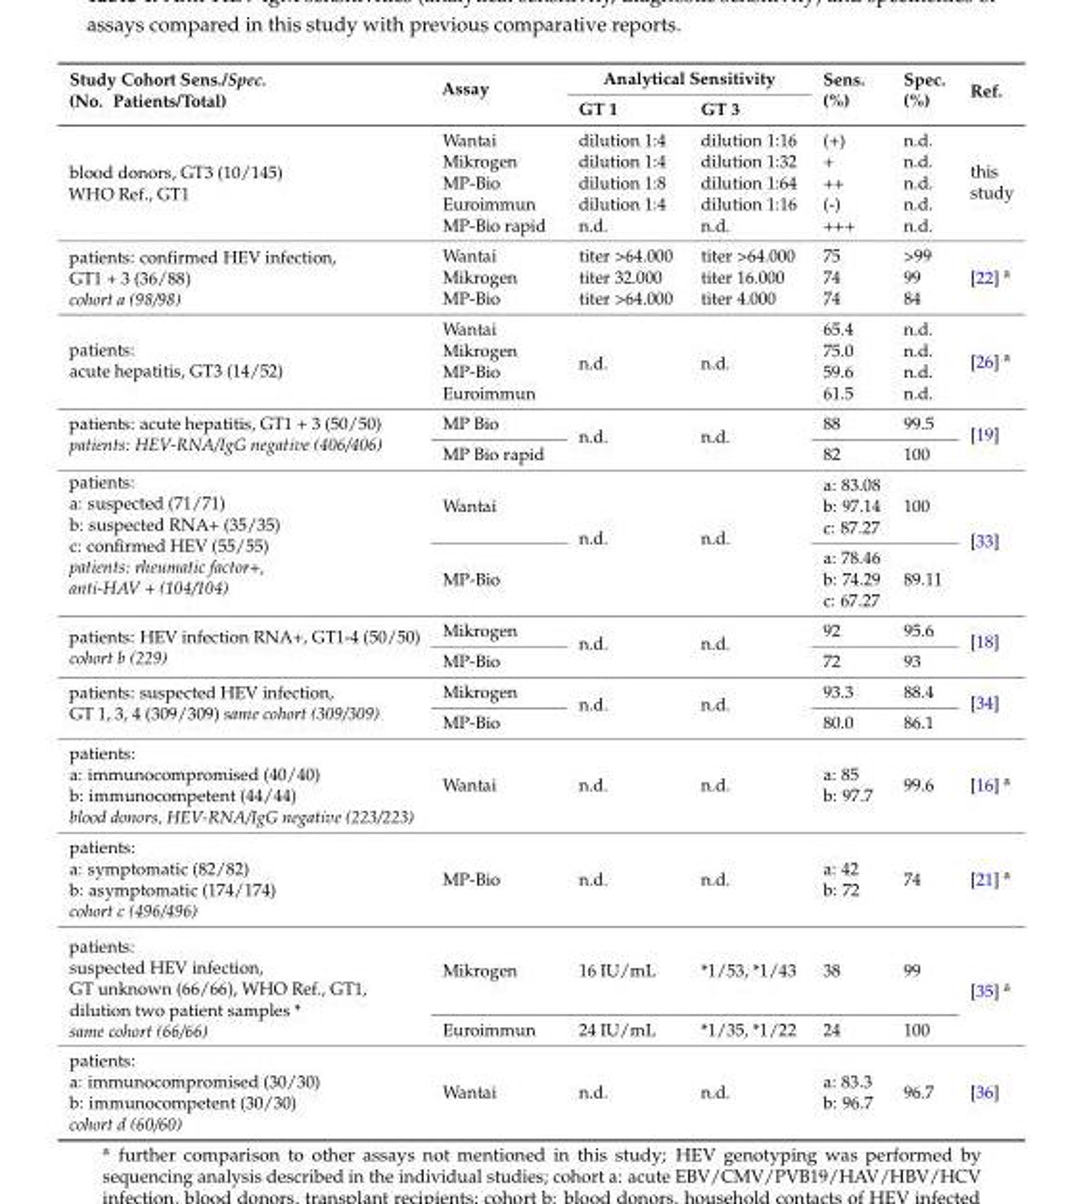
<table><thead><tr><td rowspan="2">Study Cohort Sens./Spec. (No. Patients/Total)</td><td rowspan="2">Assay</td><td colspan="2">Analytical Sensitivity</td><td rowspan="2">Sens. (%)</td><td rowspan="2">Spec. (%)</td><td rowspan="2">Ref.</td></tr><tr><td>GT 1</td><td>GT 3</td></tr></thead><tbody><tr><td rowspan="5">blood donors, GT3 (10/145) WHO Ref., GT1</td><td>Wantai</td><td>dilution 1:4</td><td>dilution 1:16</td><td>(+)</td><td>n.d.</td><td rowspan="5">this study</td></tr><tr><td>Mikrogen</td><td>dilution 1:4</td><td>dilution 1:32</td><td>+</td><td>n.d.</td></tr><tr><td>MP-Bio</td><td>dilution 1:8</td><td>dilution 1:64</td><td>++</td><td>n.d.</td></tr><tr><td>Euroimmun</td><td>dilution 1:4</td><td>dilution 1:16</td><td>(-)</td><td>n.d.</td></tr><tr><td>MP-Bio rapid</td><td>n.d.</td><td>n.d.</td><td>+++</td><td>n.d.</td></tr><tr><td rowspan="3">patients: confirmed HEV infection, GT1 + 3 (36/88) cohort a (98/98)</td><td>Wantai</td><td>titer &gt;64.000</td><td>titer &gt;64.000</td><td>75</td><td>&gt;99</td><td rowspan="3">[22] <sup>a</sup></td></tr><tr><td>Mikrogen</td><td>titer 32.000</td><td>titer 16.000</td><td>74</td><td>99</td></tr><tr><td>MP-Bio</td><td>titer &gt;64.000</td><td>titer 4.000</td><td>74</td><td>84</td></tr><tr><td rowspan="4">patients: acute hepatitis, GT3 (14/52)</td><td>Wantai</td><td rowspan="4">n.d.</td><td rowspan="4">n.d.</td><td>65.4</td><td>n.d.</td><td rowspan="4">[26] <sup>a</sup></td></tr><tr><td>Mikrogen</td><td>75.0</td><td>n.d.</td></tr><tr><td>MP-Bio</td><td>59.6</td><td>n.d.</td></tr><tr><td>Euroimmun</td><td>61.5</td><td>n.d.</td></tr><tr><td rowspan="2">patients: acute hepatitis, GT1 + 3 (50/50) patients: HEV-RNA/IgG negative (406/406)</td><td>MP Bio</td><td rowspan="2">n.d.</td><td rowspan="2">n.d.</td><td>88</td><td>99.5</td><td rowspan="2">[19]</td></tr><tr><td>MP Bio rapid</td><td>82</td><td>100</td></tr><tr><td rowspan="2">patients: a: suspected (71/71) b: suspected RNA+ (35/35) c: confirmed HEV (55/55) patients: rheumatic factor+, anti-HAV + (104/104)</td><td>Wantai</td><td rowspan="2">n.d.</td><td rowspan="2">n.d.</td><td>a: 83.08 b: 97.14 c: 87.27</td><td>100</td><td rowspan="2">[33]</td></tr><tr><td>MP-Bio</td><td>a: 78.46 b: 74.29 c: 67.27</td><td>89.11</td></tr><tr><td rowspan="2">patients: HEV infection RNA+, GT1-4 (50/50) cohort b (229)</td><td>Mikrogen</td><td rowspan="2">n.d.</td><td rowspan="2">n.d.</td><td>92</td><td>95.6</td><td rowspan="2">[18]</td></tr><tr><td>MP-Bio</td><td>72</td><td>93</td></tr><tr><td rowspan="2">patients: suspected HEV infection, GT 1, 3, 4 (309/309) same cohort (309/309)</td><td>Mikrogen</td><td rowspan="2">n.d.</td><td rowspan="2">n.d.</td><td>93.3</td><td>88.4</td><td rowspan="2">[34]</td></tr><tr><td>MP-Bio</td><td>80.0</td><td>86.1</td></tr><tr><td>patients: a: immunocompromised (40/40) b: immunocompetent (44/44) blood donors, HEV-RNA/IgG negative (223/223)</td><td>Wantai</td><td>n.d.</td><td>n.d.</td><td>a: 85 b: 97.7</td><td>99.6</td><td>[16] <sup>a</sup></td></tr><tr><td>patients: a: symptomatic (82/82) b: asymptomatic (174/174) cohort c (496/496)</td><td>MP-Bio</td><td>n.d.</td><td>n.d.</td><td>a: 42 b: 72</td><td>74</td><td>[21] <sup>a</sup></td></tr><tr><td rowspan="2">patients: suspected HEV infection, GT unknown (66/66), WHO Ref., GT1, dilution two patient samples * same cohort (66/66)</td><td>Mikrogen</td><td>16 IU/mL</td><td>*1/53, *1/43</td><td>38</td><td>99</td><td rowspan="2">[35] <sup>a</sup></td></tr><tr><td>Euroimmun</td><td>24 IU/mL</td><td>*1/35, *1/22</td><td>24</td><td>100</td></tr><tr><td>patients: a: immunocompromised (30/30) b: immunocompetent (30/30) cohort d (60/60)</td><td>Wantai</td><td>n.d.</td><td>n.d.</td><td>a: 83.3 b: 96.7</td><td>96.7</td><td>[36]</td></tr></tbody></table>